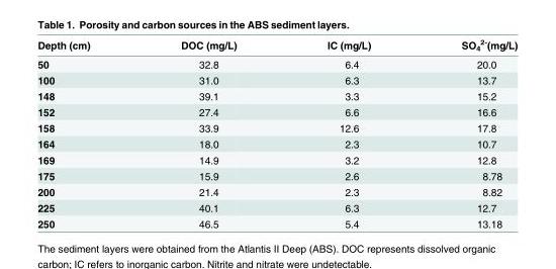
<table><thead><tr><td>Depth (cm)</td><td>DOC (mg/L)</td><td>IC (mg/L)</td><td>SO<sub>4</sub> <sup>2-</sup>(mg/L)</td></tr></thead><tbody><tr><td>50</td><td>32.8</td><td>6.4</td><td>20.0</td></tr><tr><td>100</td><td>31.0</td><td>6.3</td><td>13.7</td></tr><tr><td>148</td><td>39.1</td><td>3.3</td><td>15.2</td></tr><tr><td>152</td><td>27.4</td><td>6.6</td><td>16.6</td></tr><tr><td>158</td><td>33.9</td><td>12.6</td><td>17.8</td></tr><tr><td>164</td><td>18.0</td><td>2.3</td><td>10.7</td></tr><tr><td>169</td><td>14.9</td><td>3.2</td><td>12.8</td></tr><tr><td>175</td><td>15.9</td><td>2.6</td><td>8.78</td></tr><tr><td>200</td><td>21.4</td><td>2.3</td><td>8.82</td></tr><tr><td>225</td><td>40.1</td><td>6.3</td><td>12.7</td></tr><tr><td>250</td><td>46.5</td><td>5.4</td><td>13.18</td></tr></tbody></table>